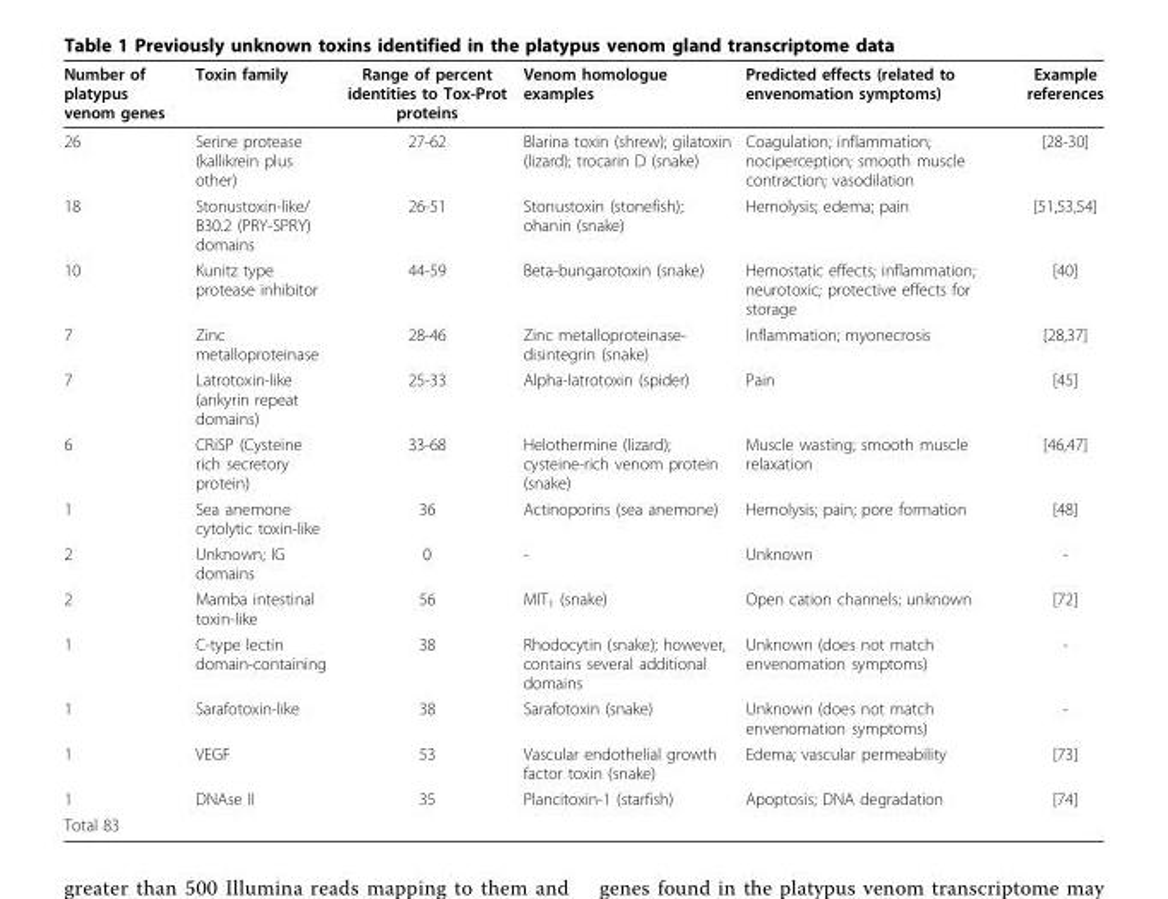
<table><thead><tr><td>Number of platypus venom genes</td><td>Toxin family</td><td>Range of percent identities to Tox-Prot proteins</td><td>Venom homologue examples</td><td>Predicted effects (related to envenomation symptoms)</td><td>Example references</td></tr></thead><tbody><tr><td>26</td><td>Serine protease (kallikrein plus other)</td><td>27-62</td><td>Blarina toxin (shrew); gilatoxin (lizard); trocarin D (snake)</td><td>Coagulation; inflammation; nociperception; smooth muscle contraction; vasodilation</td><td>[28-30]</td></tr><tr><td>18</td><td>Stonustoxin-like/ B30.2 (PRY-SPRY) domains</td><td>26-51</td><td>Stonustoxin (stonefish); ohanin (snake)</td><td>Hemolysis; edema; pain</td><td>[51,53,54]</td></tr><tr><td>10</td><td>Kunitz type protease inhibitor</td><td>44-59</td><td>Beta-bungarotoxin (snake)</td><td>Hemostatic effects; inflammation; neurotoxic; protective effects for storage</td><td>[40]</td></tr><tr><td>7</td><td>Zinc metalloproteinase</td><td>28-46</td><td>Zinc metalloproteinase- disintegrin (snake)</td><td>Inflammation; myonecrosis</td><td>[28,37]</td></tr><tr><td>7</td><td>Latrotoxin-like (ankyrin repeat domains)</td><td>25-33</td><td>Alpha-latrotoxin (spider)</td><td>Pain</td><td>[45]</td></tr><tr><td>6</td><td>CRiSP (Cysteine rich secretory protein)</td><td>33-68</td><td>Helothermine (lizard); cysteine-rich venom protein (snake)</td><td>Muscle wasting; smooth muscle relaxation</td><td>[46,47]</td></tr><tr><td>1</td><td>Sea anemone cytolytic toxin-like</td><td>36</td><td>Actinoporins (sea anemone)</td><td>Hemolysis; pain; pore formation</td><td>[48]</td></tr><tr><td>2</td><td>Unknown; IG domains</td><td>0</td><td>-</td><td>Unknown</td><td>-</td></tr><tr><td>2</td><td>Mamba intestinal toxin-like</td><td>56</td><td>MIT<sub>1</sub> (snake)</td><td>Open cation channels; unknown</td><td>[72]</td></tr><tr><td>1</td><td>C-type lectin domain-containing</td><td>38</td><td>Rhodocytin (snake); however, contains several additional domains</td><td>Unknown (does not match envenomation symptoms)</td><td>-</td></tr><tr><td>1</td><td>Sarafotoxin-like</td><td>38</td><td>Sarafotoxin (snake)</td><td>Unknown (does not match envenomation symptoms)</td><td>-</td></tr><tr><td>1</td><td>VEGF</td><td>53</td><td>Vascular endothelial growth factor toxin (snake)</td><td>Edema; vascular permeability</td><td>[73]</td></tr><tr><td>1</td><td>DNAse II</td><td>35</td><td>Plancitoxin-1 (starfish)</td><td>Apoptosis; DNA degradation</td><td>[74]</td></tr><tr><td>Total 83</td><td></td><td></td><td></td><td></td><td></td></tr></tbody></table>